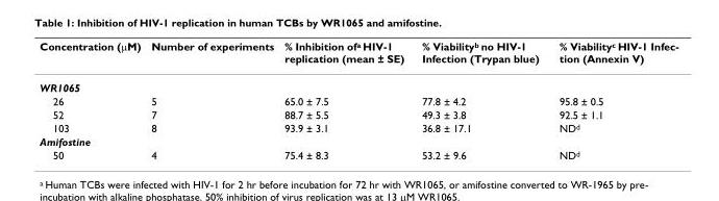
<table><thead><tr><td>Concentration (μM)</td><td>Number of experiments</td><td>% Inhibition of<sup>a</sup> HIV-1 replication (mean ± SE)</td><td>% Viability<sup>b</sup> no HIV-1 Infection (Trypan blue)</td><td>% Viabilityc HIV-1 Infec- tion (Annexin V)</td></tr></thead><tbody><tr><td colspan="5">WR1065</td></tr><tr><td>26</td><td>5</td><td>65.0 ± 7.5</td><td>77.8 ± 4.2</td><td>95.8 ± 0.5</td></tr><tr><td>52</td><td>7</td><td>88.7 ± 5.5</td><td>49.3 ± 3.8</td><td>92.5 ± 1.1</td></tr><tr><td>103</td><td>8</td><td>93.9 ± 3.1</td><td>36.8 ± 17.1</td><td>ND<sup>d</sup></td></tr><tr><td colspan="5">Amifostine</td></tr><tr><td>50</td><td>4</td><td>75.4 ± 8.3</td><td>53.2 ± 9.6</td><td>ND<sup>d</sup></td></tr></tbody></table>